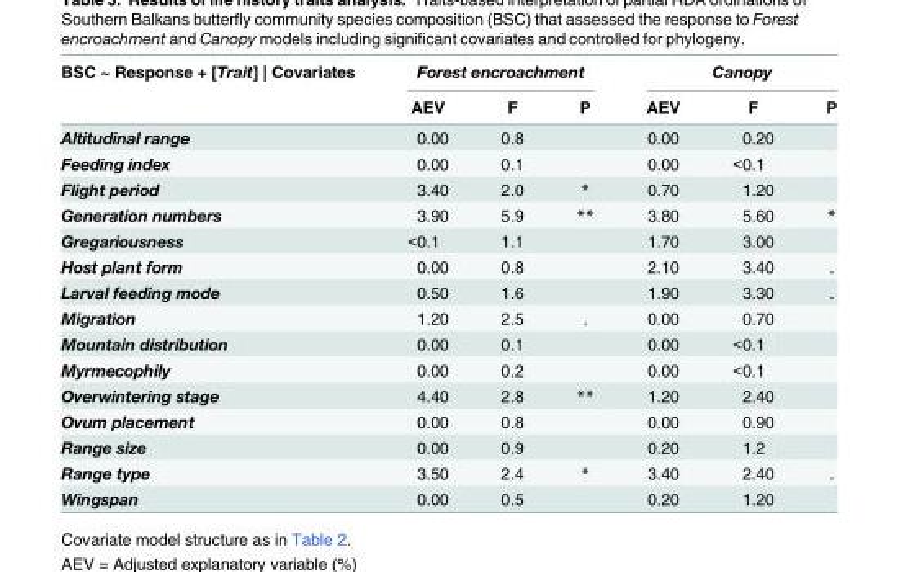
<table><thead><tr><td rowspan="2">BSC ~ Response + [Trait] | Covariates</td><td colspan="3">Forest encroachment</td><td colspan="3">Canopy</td></tr><tr><td>AEV</td><td>F</td><td>P</td><td>AEV</td><td>F</td><td>P</td></tr></thead><tbody><tr><td>Altitudinal range</td><td>0.00</td><td>0.8</td><td></td><td>0.00</td><td>0.20</td><td></td></tr><tr><td>Feeding index</td><td>0.00</td><td>0.1</td><td></td><td>0.00</td><td>&lt;0.1</td><td></td></tr><tr><td>Flight period</td><td>3.40</td><td>2.0</td><td>*</td><td>0.70</td><td>1.20</td><td></td></tr><tr><td>Generation numbers</td><td>3.90</td><td>5.9</td><td>**</td><td>3.80</td><td>5.60</td><td>*</td></tr><tr><td>Gregariousness</td><td>&lt;0.1</td><td>1.1</td><td></td><td>1.70</td><td>3.00</td><td></td></tr><tr><td>Host plant form</td><td>0.00</td><td>0.8</td><td></td><td>2.10</td><td>3.40</td><td>.</td></tr><tr><td>Larval feeding mode</td><td>0.50</td><td>1.6</td><td></td><td>1.90</td><td>3.30</td><td>.</td></tr><tr><td>Migration</td><td>1.20</td><td>2.5</td><td>.</td><td>0.00</td><td>0.70</td><td></td></tr><tr><td>Mountain distribution</td><td>0.00</td><td>0.1</td><td></td><td>0.00</td><td>&lt;0.1</td><td></td></tr><tr><td>Myrmecophily</td><td>0.00</td><td>0.2</td><td></td><td>0.00</td><td>&lt;0.1</td><td></td></tr><tr><td>Overwintering stage</td><td>4.40</td><td>2.8</td><td>**</td><td>1.20</td><td>2.40</td><td></td></tr><tr><td>Ovum placement</td><td>0.00</td><td>0.8</td><td></td><td>0.00</td><td>0.90</td><td></td></tr><tr><td>Range size</td><td>0.00</td><td>0.9</td><td></td><td>0.20</td><td>1.2</td><td></td></tr><tr><td>Range type</td><td>3.50</td><td>2.4</td><td>*</td><td>3.40</td><td>2.40</td><td>.</td></tr><tr><td>Wingspan</td><td>0.00</td><td>0.5</td><td></td><td>0.20</td><td>1.20</td><td></td></tr></tbody></table>